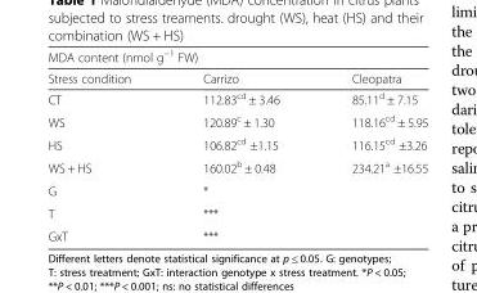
<table><thead><tr><td colspan="3">MDA content (nmol g<sup>−1</sup> FW)</td></tr><tr><td>Stress condition</td><td>Carrizo</td><td>Cleopatra</td></tr></thead><tbody><tr><td>CT</td><td>112.83<sup>cd</sup> ± 3.46</td><td>85.11<sup>d</sup> ± 7.15</td></tr><tr><td>WS</td><td>120.89<sup>c</sup> ± 1.30</td><td>118.16<sup>cd</sup> ± 5.95</td></tr><tr><td>HS</td><td>106.82<sup>cd</sup> ±1.15</td><td>116.15<sup>cd</sup> ±3.26</td></tr><tr><td>WS + HS</td><td>160.02<sup>b</sup> ± 0.48</td><td>234.21<sup>a</sup> ±16.55</td></tr><tr><td>G</td><td colspan="2">*</td></tr><tr><td>T</td><td colspan="2">***</td></tr><tr><td>GxT</td><td colspan="2">***</td></tr></tbody></table>